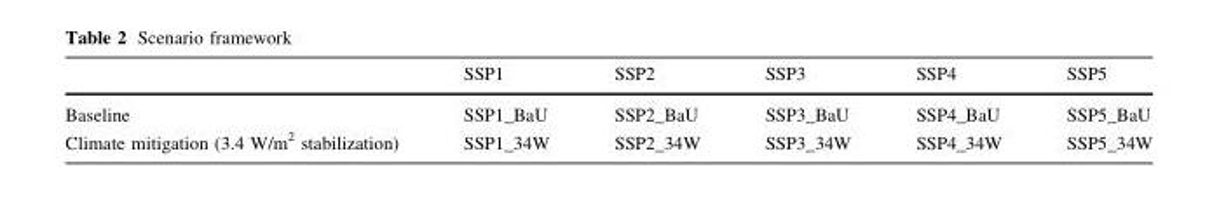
<table><thead><tr><td></td><td>SSP1</td><td>SSP2</td><td>SSP3</td><td>SSP4</td><td>SSP5</td></tr></thead><tbody><tr><td>Baseline</td><td>SSP1_BaU</td><td>SSP2_BaU</td><td>SSP3_BaU</td><td>SSP4_BaU</td><td>SSP5_BaU</td></tr><tr><td>Climate mitigation (3.4 W/m<sup>2</sup> stabilization)</td><td>SSP1_34W</td><td>SSP2_34W</td><td>SSP3_34W</td><td>SSP4_34W</td><td>SSP5_34W</td></tr></tbody></table>